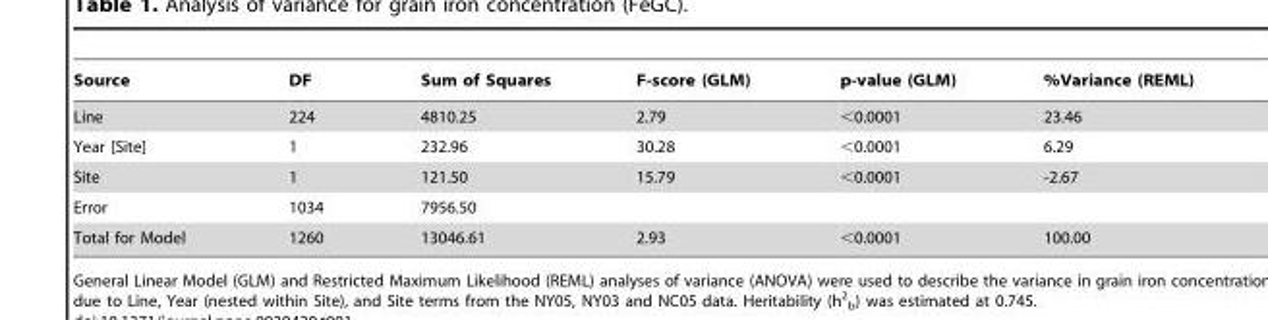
<table><thead><tr><td>Source</td><td>DF</td><td>Sum of Squares</td><td>F-score (GLM)</td><td>p-value (GLM)</td><td>%Variance (REML)</td></tr></thead><tbody><tr><td>Line</td><td>224</td><td>4810.25</td><td>2.79</td><td>&lt;0.0001</td><td>23.46</td></tr><tr><td>Year [Site]</td><td>1</td><td>232.96</td><td>30.28</td><td>&lt;0.0001</td><td>6.29</td></tr><tr><td>Site</td><td>1</td><td>121.50</td><td>15.79</td><td>&lt;0.0001</td><td>-2.67</td></tr><tr><td>Error</td><td>1034</td><td>7956.50</td><td></td><td></td><td></td></tr><tr><td>Total for Model</td><td>1260</td><td>13046.61</td><td>2.93</td><td>&lt;0.0001</td><td>100.00</td></tr></tbody></table>